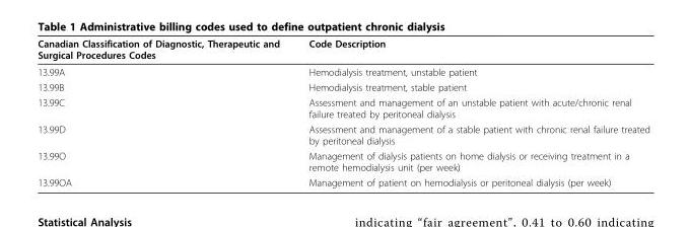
<table><thead><tr><td>Canadian Classification of Diagnostic, Therapeutic and Surgical Procedures Codes</td><td>Code Description</td></tr></thead><tbody><tr><td>13.99A</td><td>Hemodialysis treatment, unstable patient</td></tr><tr><td>13.99B</td><td>Hemodialysis treatment, stable patient</td></tr><tr><td>13.99C</td><td>Assessment and management of an unstable patient with acute/chronic renal failure treated by peritoneal dialysis</td></tr><tr><td>13.99D</td><td>Assessment and management of a stable patient with chronic renal failure treated by peritoneal dialysis</td></tr><tr><td>13.99O</td><td>Management of dialysis patients on home dialysis or receiving treatment in a remote hemodialysis unit (per week)</td></tr><tr><td>13.99OA</td><td>Management of patient on hemodialysis or peritoneal dialysis (per week)</td></tr></tbody></table>